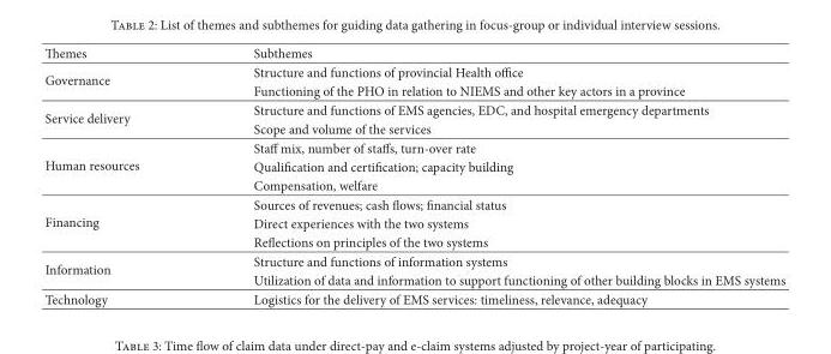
<table><thead><tr><td>Themes</td><td>Subthemes</td></tr></thead><tbody><tr><td rowspan="2">Governance</td><td>Structure and functions of provincial Health office</td></tr><tr><td>Functioning of the PHO in relation to NIEMS and other key actors in a province</td></tr><tr><td rowspan="2">Service delivery</td><td>Structure and functions of EMS agencies, EDC, and hospital emergency departments</td></tr><tr><td>Scope and volume of the services</td></tr><tr><td rowspan="3">Human resources</td><td>Staff mix, number of staffs, turn-over rate</td></tr><tr><td>Qualification and certification; capacity building</td></tr><tr><td>Compensation, welfare</td></tr><tr><td rowspan="3">Financing</td><td>Sources of revenues; cash flows; financial status</td></tr><tr><td>Direct experiences with the two systems</td></tr><tr><td>Reflections on principles of the two systems</td></tr><tr><td rowspan="2">Information</td><td>Structure and functions of information systems</td></tr><tr><td>Utilization of data and information to support functioning of other building blocks in EMS systems</td></tr><tr><td>Technology</td><td>Logistics for the delivery of EMS services: timeliness, relevance, adequacy</td></tr></tbody></table>